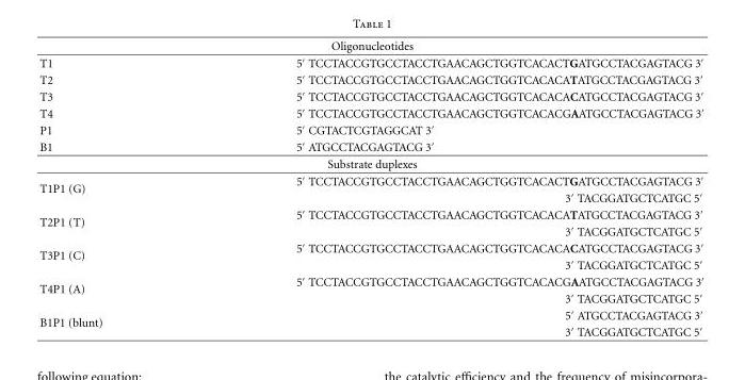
<table><thead><tr><td colspan="2">Oligonucleotides</td></tr><tr><td>T1</td><td>5′ TCCTACCGTGCCTACCTGAACAGCTGGTCACACTGATGCCTACGAGTACG 3′</td></tr></thead><tbody><tr><td>T2</td><td>5′ TCCTACCGTGCCTACCTGAACAGCTGGTCACACATATGCCTACGAGTACG 3′</td></tr><tr><td>T3</td><td>5′ TCCTACCGTGCCTACCTGAACAGCTGGTCACACACATGCCTACGAGTACG 3′</td></tr><tr><td>T4</td><td>5′ TCCTACCGTGCCTACCTGAACAGCTGGTCACACGAATGCCTACGAGTACG 3′</td></tr><tr><td>P1</td><td>5′ CGTACTCGTAGGCAT 3′</td></tr><tr><td>B1</td><td>5′ ATGCCTACGAGTACG 3′</td></tr><tr><td colspan="2">Substrate duplexes</td></tr><tr><td rowspan="2">T1P1 (G)</td><td>5′ TCCTACCGTGCCTACCTGAACAGCTGGTCACACTGATGCCTACGAGTACG 3′</td></tr><tr><td>3′ TACGGATGCTCATGC 5′</td></tr><tr><td rowspan="2">T2P1 (T)</td><td>5′ TCCTACCGTGCCTACCTGAACAGCTGGTCACACATATGCCTACGAGTACG 3′</td></tr><tr><td>3′ TACGGATGCTCATGC 5′</td></tr><tr><td rowspan="2">T3P1 (C)</td><td>5′ TCCTACCGTGCCTACCTGAACAGCTGGTCACACACATGCCTACGAGTACG 3′</td></tr><tr><td>3′ TACGGATGCTCATGC 5′</td></tr><tr><td rowspan="2">T4P1 (A)</td><td>5′ TCCTACCGTGCCTACCTGAACAGCTGGTCACACGAATGCCTACGAGTACG 3′</td></tr><tr><td>3′ TACGGATGCTCATGC 5′</td></tr><tr><td rowspan="2">B1P1 (blunt)</td><td>5′ ATGCCTACGAGTACG 3′</td></tr><tr><td>3′ TACGGATGCTCATGC 5′</td></tr></tbody></table>